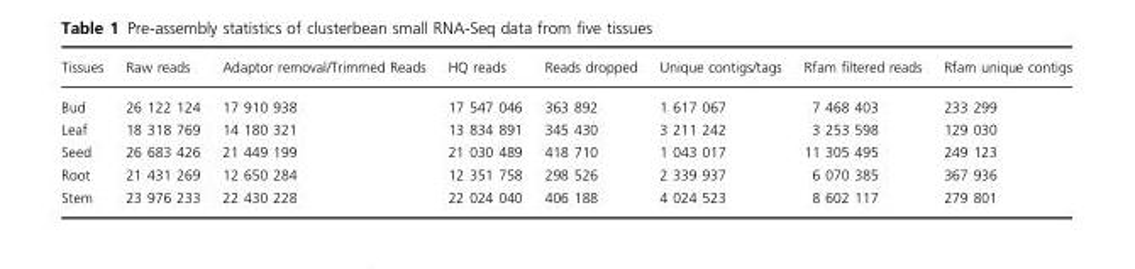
<table><thead><tr><td>Tissues</td><td>Raw reads</td><td>Adaptor removal/Trimmed Reads</td><td>HQ reads</td><td>Reads dropped</td><td>Unique contigs/tags</td><td>Rfam filtered reads</td><td>Rfam unique contigs</td></tr></thead><tbody><tr><td>Bud</td><td>26 122 124</td><td>17 910 938</td><td>17 547 046</td><td>363 892</td><td>1 617 067</td><td>7 468 403</td><td>233 299</td></tr><tr><td>Leaf</td><td>18 318 769</td><td>14 180 321</td><td>13 834 891</td><td>345 430</td><td>3 211 242</td><td>3 253 598</td><td>129 030</td></tr><tr><td>Seed</td><td>26 683 426</td><td>21 449 199</td><td>21 030 489</td><td>418 710</td><td>1 043 017</td><td>11 305 495</td><td>249 123</td></tr><tr><td>Root</td><td>21 431 269</td><td>12 650 284</td><td>12 351 758</td><td>298 526</td><td>2 339 937</td><td>6 070 385</td><td>367 936</td></tr><tr><td>Stem</td><td>23 976 233</td><td>22 430 228</td><td>22 024 040</td><td>406 188</td><td>4 024 523</td><td>8 602 117</td><td>279 801</td></tr></tbody></table>